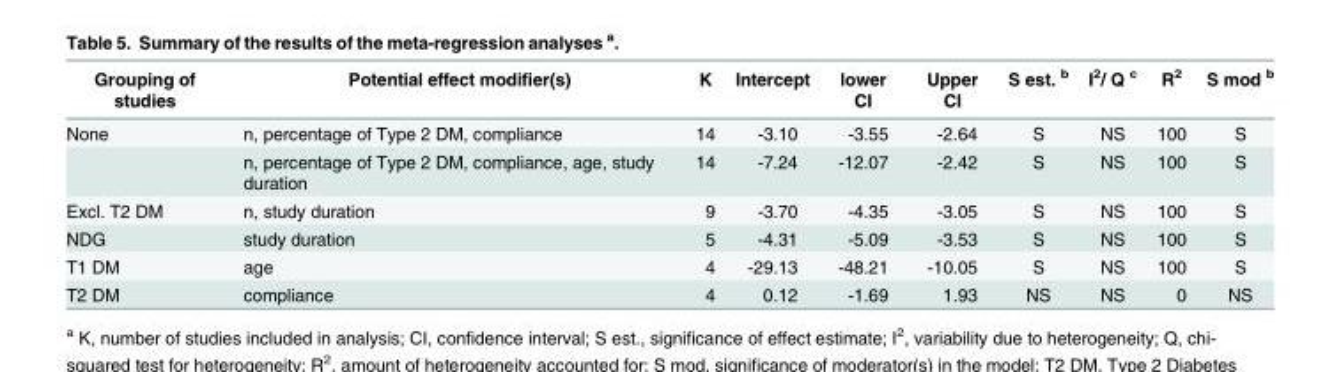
<table><thead><tr><td>Grouping of studies</td><td>Potential effect modifier(s)</td><td>K</td><td>Intercept</td><td>lower CI</td><td>Upper CI</td><td>S est. <sup>b</sup></td><td>I<sup>2</sup>/ Q <sup>c</sup></td><td>R<sup>2</sup></td><td>S mod <sup>b</sup></td></tr></thead><tbody><tr><td rowspan="2">None</td><td>n, percentage of Type 2 DM, compliance</td><td>14</td><td>-3.10</td><td>-3.55</td><td>-2.64</td><td>S</td><td>NS</td><td>100</td><td>S</td></tr><tr><td>n, percentage of Type 2 DM, compliance, age, study duration</td><td>14</td><td>-7.24</td><td>-12.07</td><td>-2.42</td><td>S</td><td>NS</td><td>100</td><td>S</td></tr><tr><td>Excl. T2 DM</td><td>n, study duration</td><td>9</td><td>-3.70</td><td>-4.35</td><td>-3.05</td><td>S</td><td>NS</td><td>100</td><td>S</td></tr><tr><td>NDG</td><td>study duration</td><td>5</td><td>-4.31</td><td>-5.09</td><td>-3.53</td><td>S</td><td>NS</td><td>100</td><td>S</td></tr><tr><td>T1 DM</td><td>age</td><td>4</td><td>-29.13</td><td>-48.21</td><td>-10.05</td><td>S</td><td>NS</td><td>100</td><td>S</td></tr><tr><td>T2 DM</td><td>compliance</td><td>4</td><td>0.12</td><td>-1.69</td><td>1.93</td><td>NS</td><td>NS</td><td>0</td><td>NS</td></tr></tbody></table>